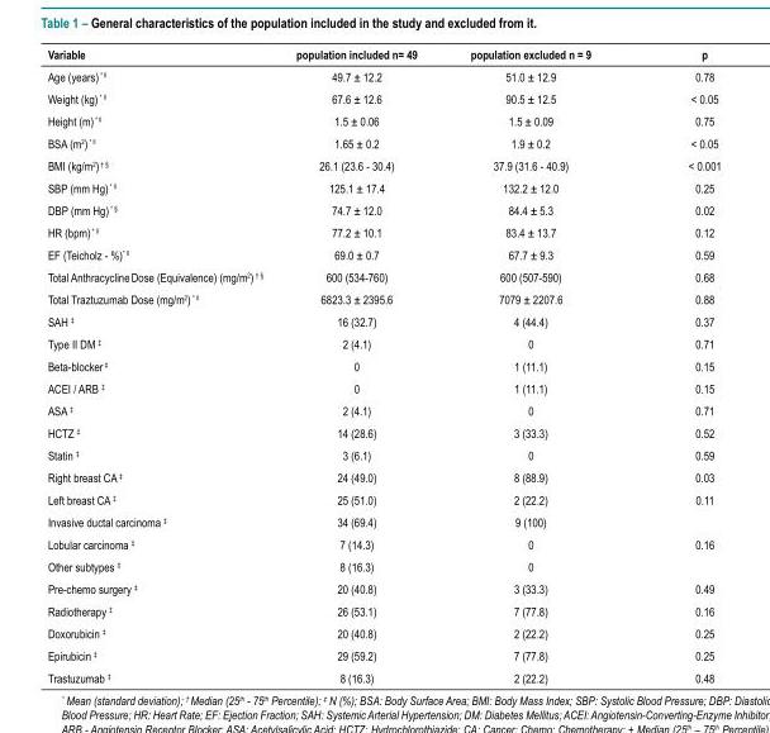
<table><thead><tr><td>Variable</td><td>population included n= 49</td><td>population excluded n = 9</td><td>p</td></tr></thead><tbody><tr><td>Age (years) <sup>* ll</sup></td><td>49.7 ± 12.2</td><td>51.0 ± 12.9</td><td>0.78</td></tr><tr><td>Weight (kg) <sup>* ll</sup></td><td>67.6 ± 12.6</td><td>90.5 ± 12.5</td><td>&lt; 0.05</td></tr><tr><td>Height (m) <sup>* ll</sup></td><td>1.5 ± 0.06</td><td>1.5 ± 0.09</td><td>0.75</td></tr><tr><td>BSA (m<sup>2</sup>) <sup>* ll</sup></td><td>1.65 ± 0.2</td><td>1.9 ± 0.2</td><td>&lt; 0.05</td></tr><tr><td>BMI (kg/m<sup>2</sup>) † §</td><td>26.1 (23.6 - 30.4)</td><td>37.9 (31.6 - 40.9)</td><td>&lt; 0.001</td></tr><tr><td>SBP (mm Hg) <sup>* ll</sup></td><td>125.1 ± 17.4</td><td>132.2 ± 12.0</td><td>0.25</td></tr><tr><td>DBP (mm Hg) <sup>* §</sup></td><td>74.7 ± 12.0</td><td>84.4 ± 5.3</td><td>0.02</td></tr><tr><td>HR (bpm) <sup>* ll</sup></td><td>77.2 ± 10.1</td><td>83.4 ± 13.7</td><td>0.12</td></tr><tr><td>EF (Teicholz - %)<sup>* ll</sup></td><td>69.0 ± 0.7</td><td>67.7 ± 9.3</td><td>0.59</td></tr><tr><td>Total Anthracycline Dose (Equivalence) (mg/m<sup>2</sup>) <sup>† §</sup></td><td>600 (534-760)</td><td>600 (507-590)</td><td>0.68</td></tr><tr><td>Total Traztuzumab Dose (mg/m<sup>2</sup>) <sup>* ll</sup></td><td>6823.3 ± 2395.6</td><td>7079 ± 2207.6</td><td>0.88</td></tr><tr><td>SAH <sup>‡</sup></td><td>16 (32.7)</td><td>4 (44.4)</td><td>0.37</td></tr><tr><td>Type II DM <sup>‡</sup></td><td>2 (4.1)</td><td>0</td><td>0.71</td></tr><tr><td>Beta-blocker <sup>‡</sup></td><td>0</td><td>1 (11.1)</td><td>0.15</td></tr><tr><td>ACEI / ARB <sup>‡</sup></td><td>0</td><td>1 (11.1)</td><td>0.15</td></tr><tr><td>ASA <sup>‡</sup></td><td>2 (4.1)</td><td>0</td><td>0.71</td></tr><tr><td>HCTZ <sup>‡</sup></td><td>14 (28.6)</td><td>3 (33.3)</td><td>0.52</td></tr><tr><td>Statin <sup>‡</sup></td><td>3 (6.1)</td><td>0</td><td>0.59</td></tr><tr><td>Right breast CA <sup>‡</sup></td><td>24 (49.0)</td><td>8 (88.9)</td><td>0.03</td></tr><tr><td>Left breast CA <sup>‡</sup></td><td>25 (51.0)</td><td>2 (22.2)</td><td>0.11</td></tr><tr><td>Invasive ductal carcinoma <sup>‡</sup></td><td>34 (69.4)</td><td>9 (100)</td><td></td></tr><tr><td>Lobular carcinoma <sup>‡</sup></td><td>7 (14.3)</td><td>0</td><td>0.16</td></tr><tr><td>Other subtypes <sup>‡</sup></td><td>8 (16.3)</td><td>0</td><td></td></tr><tr><td>Pre-chemo surgery <sup>‡</sup></td><td>20 (40.8)</td><td>3 (33.3)</td><td>0.49</td></tr><tr><td>Radiotherapy <sup>‡</sup></td><td>26 (53.1)</td><td>7 (77.8)</td><td>0.16</td></tr><tr><td>Doxorubicin <sup>‡</sup></td><td>20 (40.8)</td><td>2 (22.2)</td><td>0.25</td></tr><tr><td>Epirubicin <sup>‡</sup></td><td>29 (59.2)</td><td>7 (77.8)</td><td>0.25</td></tr><tr><td>Trastuzumab <sup>‡</sup></td><td>8 (16.3)</td><td>2 (22.2)</td><td>0.48</td></tr></tbody></table>